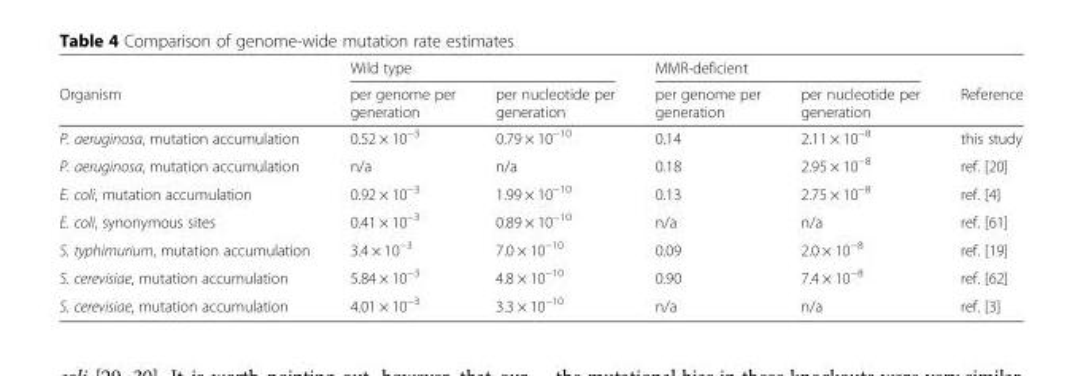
<table><thead><tr><td rowspan="2">Organism</td><td colspan="2">Wild type</td><td colspan="2">MMR-deficient</td><td rowspan="2">Reference</td></tr><tr><td>per genome per generation</td><td>per nucleotide per generation</td><td>per genome per generation</td><td>per nucleotide per generation</td></tr></thead><tbody><tr><td>P. aeruginosa, mutation accumulation</td><td>0.52 × 10<sup>−3</sup></td><td>0.79 × 10<sup>−10</sup></td><td>0.14</td><td>2.11 × 10<sup>−8</sup></td><td>this study</td></tr><tr><td>P. aeruginosa, mutation accumulation</td><td>n/a</td><td>n/a</td><td>0.18</td><td>2.95 × 10<sup>−8</sup></td><td>ref. [20]</td></tr><tr><td>E. coli, mutation accumulation</td><td>0.92 × 10<sup>−3</sup></td><td>1.99 × 10<sup>−10</sup></td><td>0.13</td><td>2.75 × 10<sup>−8</sup></td><td>ref. [4]</td></tr><tr><td>E. coli, synonymous sites</td><td>0.41 × 10<sup>−3</sup></td><td>0.89 × 10<sup>−10</sup></td><td>n/a</td><td>n/a</td><td>ref. [61]</td></tr><tr><td>S. typhimurium, mutation accumulation</td><td>3.4 × 10<sup>−3</sup></td><td>7.0 × 10<sup>−10</sup></td><td>0.09</td><td>2.0 × 10<sup>−8</sup></td><td>ref. [19]</td></tr><tr><td>S. cerevisiae, mutation accumulation</td><td>5.84 × 10<sup>−3</sup></td><td>4.8 × 10<sup>−10</sup></td><td>0.90</td><td>7.4 × 10<sup>−8</sup></td><td>ref. [62]</td></tr><tr><td>S. cerevisiae, mutation accumulation</td><td>4.01 × 10<sup>−3</sup></td><td>3.3 × 10<sup>−10</sup></td><td>n/a</td><td>n/a</td><td>ref. [3]</td></tr></tbody></table>